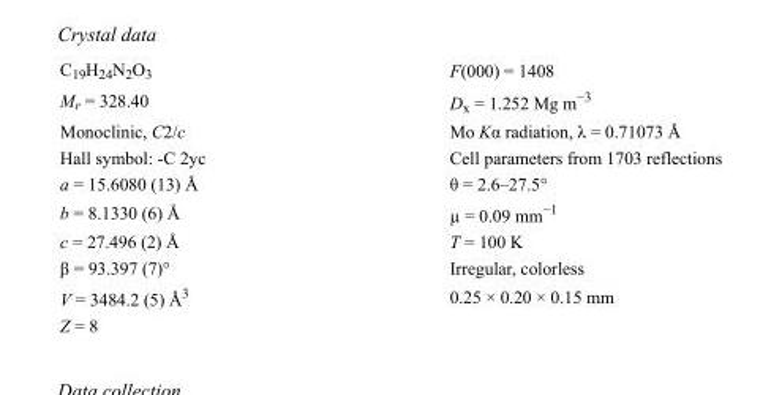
<table><tbody><tr><td>C<sub>19</sub>H<sub>24</sub>N<sub>2</sub>O<sub>3</sub></td><td>F(000) = 1408</td></tr><tr><td>M<sub>r</sub> = 328.40</td><td>D<sub>x</sub> = 1.252 Mg m<sup>−3</sup></td></tr><tr><td>Monoclinic, C2/c</td><td>Mo Kα radiation, λ = 0.71073 Å</td></tr><tr><td>Hall symbol: -C 2yc</td><td>Cell parameters from 1703 reflections</td></tr><tr><td>a = 15.6080 (13) Å</td><td>θ = 2.6–27.5°</td></tr><tr><td>b = 8.1330 (6) Å</td><td>µ = 0.09 mm<sup>−1</sup></td></tr><tr><td>c = 27.496 (2) Å</td><td>T = 100 K</td></tr><tr><td>β = 93.397 (7)°</td><td>Irregular, colorless</td></tr><tr><td>V = 3484.2 (5) Å<sup>3</sup></td><td>0.25 × 0.20 × 0.15 mm</td></tr><tr><td>Z = 8</td><td></td></tr></tbody></table>